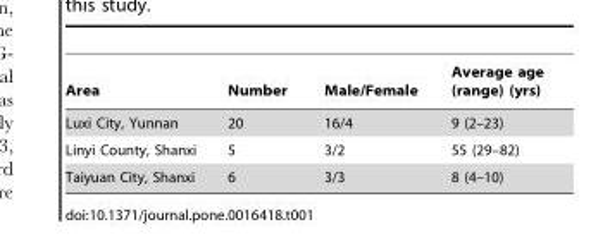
<table><thead><tr><td>Area</td><td>Number</td><td>Male/Female</td><td>Average age (range) (yrs)</td></tr></thead><tbody><tr><td>Luxi City, Yunnan</td><td>20</td><td>16/4</td><td>9 (2–23)</td></tr><tr><td>Linyi County, Shanxi</td><td>5</td><td>3/2</td><td>55 (29–82)</td></tr><tr><td>Taiyuan City, Shanxi</td><td>6</td><td>3/3</td><td>8 (4–10)</td></tr></tbody></table>